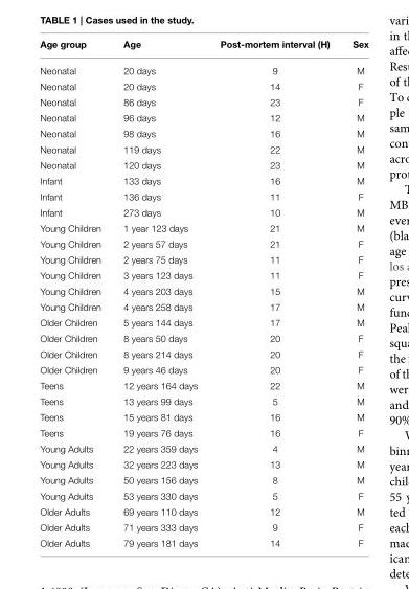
<table><thead><tr><td>Age group</td><td>Age</td><td>Post-mortem interval (H)</td><td>Sex</td></tr></thead><tbody><tr><td>Neonatal</td><td>20 days</td><td>9</td><td>M</td></tr><tr><td>Neonatal</td><td>20 days</td><td>14</td><td>F</td></tr><tr><td>Neonatal</td><td>86 days</td><td>23</td><td>F</td></tr><tr><td>Neonatal</td><td>96 days</td><td>12</td><td>M</td></tr><tr><td>Neonatal</td><td>98 days</td><td>16</td><td>M</td></tr><tr><td>Neonatal</td><td>119 days</td><td>22</td><td>M</td></tr><tr><td>Neonatal</td><td>120 days</td><td>23</td><td>M</td></tr><tr><td>Infant</td><td>133 days</td><td>16</td><td>M</td></tr><tr><td>Infant</td><td>136 days</td><td>11</td><td>F</td></tr><tr><td>Infant</td><td>273 days</td><td>10</td><td>M</td></tr><tr><td>Young Children</td><td>1 year 123 days</td><td>21</td><td>M</td></tr><tr><td>Young Children</td><td>2 years 57 days</td><td>21</td><td>F</td></tr><tr><td>Young Children</td><td>2 years 75 days</td><td>11</td><td>F</td></tr><tr><td>Young Children</td><td>3 years 123 days</td><td>11</td><td>F</td></tr><tr><td>Young Children</td><td>4 years 203 days</td><td>15</td><td>M</td></tr><tr><td>Young Children</td><td>4 years 258 days</td><td>17</td><td>M</td></tr><tr><td>Older Children</td><td>5 years 144 days</td><td>17</td><td>M</td></tr><tr><td>Older Children</td><td>8 years 50 days</td><td>20</td><td>F</td></tr><tr><td>Older Children</td><td>8 years 214 days</td><td>20</td><td>F</td></tr><tr><td>Older Children</td><td>9 years 46 days</td><td>20</td><td>F</td></tr><tr><td>Teens</td><td>12 years 164 days</td><td>22</td><td>M</td></tr><tr><td>Teens</td><td>13 years 99 days</td><td>5</td><td>M</td></tr><tr><td>Teens</td><td>15 years 81 days</td><td>16</td><td>M</td></tr><tr><td>Teens</td><td>19 years 76 days</td><td>16</td><td>F</td></tr><tr><td>Young Adults</td><td>22 years 359 days</td><td>4</td><td>M</td></tr><tr><td>Young Adults</td><td>32 years 223 days</td><td>13</td><td>M</td></tr><tr><td>Young Adults</td><td>50 years 156 days</td><td>8</td><td>M</td></tr><tr><td>Young Adults</td><td>53 years 330 days</td><td>5</td><td>F</td></tr><tr><td>Older Adults</td><td>69 years 110 days</td><td>12</td><td>M</td></tr><tr><td>Older Adults</td><td>71 years 333 days</td><td>9</td><td>F</td></tr><tr><td>Older Adults</td><td>79 years 181 days</td><td>14</td><td>F</td></tr></tbody></table>